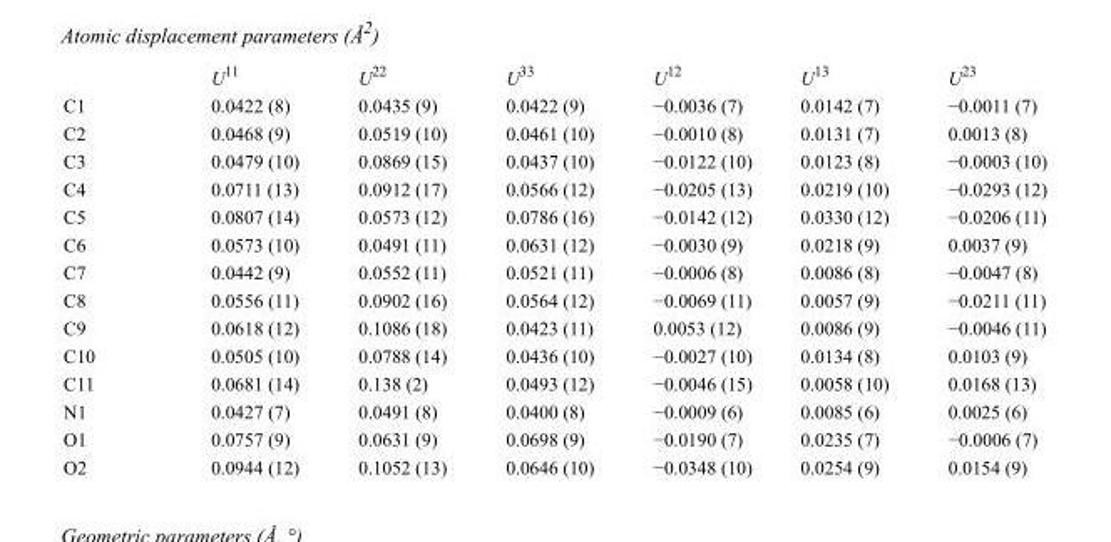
<table><thead><tr><td></td><td>U<sup>11</sup></td><td>U<sup>22</sup></td><td>U<sup>33</sup></td><td>U<sup>12</sup></td><td>U<sup>13</sup></td><td>U<sup>23</sup></td></tr></thead><tbody><tr><td>C1</td><td>0.0422 (8)</td><td>0.0435 (9)</td><td>0.0422 (9)</td><td>−0.0036 (7)</td><td>0.0142 (7)</td><td>−0.0011 (7)</td></tr><tr><td>C2</td><td>0.0468 (9)</td><td>0.0519 (10)</td><td>0.0461 (10)</td><td>−0.0010 (8)</td><td>0.0131 (7)</td><td>0.0013 (8)</td></tr><tr><td>C3</td><td>0.0479 (10)</td><td>0.0869 (15)</td><td>0.0437 (10)</td><td>−0.0122 (10)</td><td>0.0123 (8)</td><td>−0.0003 (10)</td></tr><tr><td>C4</td><td>0.0711 (13)</td><td>0.0912 (17)</td><td>0.0566 (12)</td><td>−0.0205 (13)</td><td>0.0219 (10)</td><td>−0.0293 (12)</td></tr><tr><td>C5</td><td>0.0807 (14)</td><td>0.0573 (12)</td><td>0.0786 (16)</td><td>−0.0142 (12)</td><td>0.0330 (12)</td><td>−0.0206 (11)</td></tr><tr><td>C6</td><td>0.0573 (10)</td><td>0.0491 (11)</td><td>0.0631 (12)</td><td>−0.0030 (9)</td><td>0.0218 (9)</td><td>0.0037 (9)</td></tr><tr><td>C7</td><td>0.0442 (9)</td><td>0.0552 (11)</td><td>0.0521 (11)</td><td>−0.0006 (8)</td><td>0.0086 (8)</td><td>−0.0047 (8)</td></tr><tr><td>C8</td><td>0.0556 (11)</td><td>0.0902 (16)</td><td>0.0564 (12)</td><td>−0.0069 (11)</td><td>0.0057 (9)</td><td>−0.0211 (11)</td></tr><tr><td>C9</td><td>0.0618 (12)</td><td>0.1086 (18)</td><td>0.0423 (11)</td><td>0.0053 (12)</td><td>0.0086 (9)</td><td>−0.0046 (11)</td></tr><tr><td>C10</td><td>0.0505 (10)</td><td>0.0788 (14)</td><td>0.0436 (10)</td><td>−0.0027 (10)</td><td>0.0134 (8)</td><td>0.0103 (9)</td></tr><tr><td>C11</td><td>0.0681 (14)</td><td>0.138 (2)</td><td>0.0493 (12)</td><td>−0.0046 (15)</td><td>0.0058 (10)</td><td>0.0168 (13)</td></tr><tr><td>N1</td><td>0.0427 (7)</td><td>0.0491 (8)</td><td>0.0400 (8)</td><td>−0.0009 (6)</td><td>0.0085 (6)</td><td>0.0025 (6)</td></tr><tr><td>O1</td><td>0.0757 (9)</td><td>0.0631 (9)</td><td>0.0698 (9)</td><td>−0.0190 (7)</td><td>0.0235 (7)</td><td>−0.0006 (7)</td></tr><tr><td>O2</td><td>0.0944 (12)</td><td>0.1052 (13)</td><td>0.0646 (10)</td><td>−0.0348 (10)</td><td>0.0254 (9)</td><td>0.0154 (9)</td></tr></tbody></table>